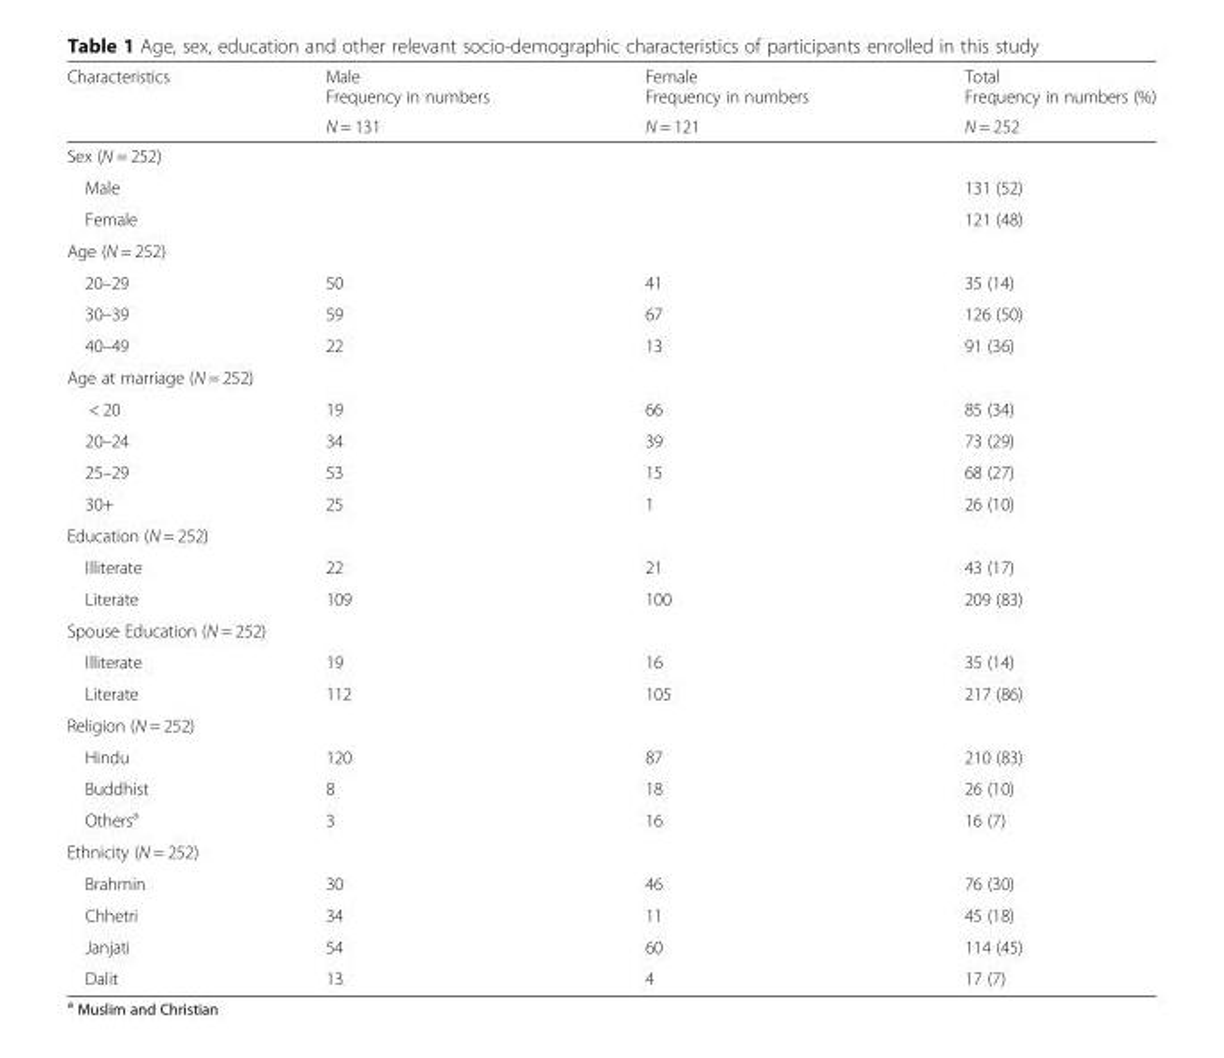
<table><thead><tr><td rowspan="2">Characteristics</td><td rowspan="2">Male Frequency in numbers N = 131</td><td rowspan="2">Female Frequency in numbers N = 121</td><td rowspan="2">Total Frequency in numbers (%) N = 252</td></tr><tr></tr></thead><tbody><tr><td colspan="4">Sex (N = 252)</td></tr><tr><td>Male</td><td></td><td></td><td>131 (52)</td></tr><tr><td>Female</td><td></td><td></td><td>121 (48)</td></tr><tr><td colspan="4">Age (N = 252)</td></tr><tr><td>20–29</td><td>50</td><td>41</td><td>35 (14)</td></tr><tr><td>30–39</td><td>59</td><td>67</td><td>126 (50)</td></tr><tr><td>40–49</td><td>22</td><td>13</td><td>91 (36)</td></tr><tr><td colspan="4">Age at marriage (N = 252)</td></tr><tr><td>&lt; 20</td><td>19</td><td>66</td><td>85 (34)</td></tr><tr><td>20–24</td><td>34</td><td>39</td><td>73 (29)</td></tr><tr><td>25–29</td><td>53</td><td>15</td><td>68 (27)</td></tr><tr><td>30+</td><td>25</td><td>1</td><td>26 (10)</td></tr><tr><td colspan="4">Education (N = 252)</td></tr><tr><td>Illiterate</td><td>22</td><td>21</td><td>43 (17)</td></tr><tr><td>Literate</td><td>109</td><td>100</td><td>209 (83)</td></tr><tr><td colspan="4">Spouse Education (N = 252)</td></tr><tr><td>Illiterate</td><td>19</td><td>16</td><td>35 (14)</td></tr><tr><td>Literate</td><td>112</td><td>105</td><td>217 (86)</td></tr><tr><td colspan="4">Religion (N = 252)</td></tr><tr><td>Hindu</td><td>120</td><td>87</td><td>210 (83)</td></tr><tr><td>Buddhist</td><td>8</td><td>18</td><td>26 (10)</td></tr><tr><td>Others<sup>a</sup></td><td>3</td><td>16</td><td>16 (7)</td></tr><tr><td colspan="4">Ethnicity (N = 252)</td></tr><tr><td>Brahmin</td><td>30</td><td>46</td><td>76 (30)</td></tr><tr><td>Chhetri</td><td>34</td><td>11</td><td>45 (18)</td></tr><tr><td>Janjati</td><td>54</td><td>60</td><td>114 (45)</td></tr><tr><td>Dalit</td><td>13</td><td>4</td><td>17 (7)</td></tr></tbody></table>